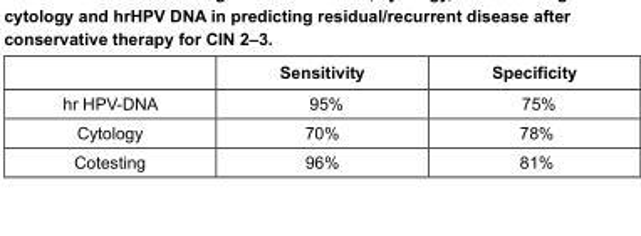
<table><thead><tr><td></td><td>Sensitivity</td><td>Specificity</td></tr></thead><tbody><tr><td>hr HPV-DNA</td><td>95%</td><td>75%</td></tr><tr><td>Cytology</td><td>70%</td><td>78%</td></tr><tr><td>Cotesting</td><td>96%</td><td>81%</td></tr></tbody></table>